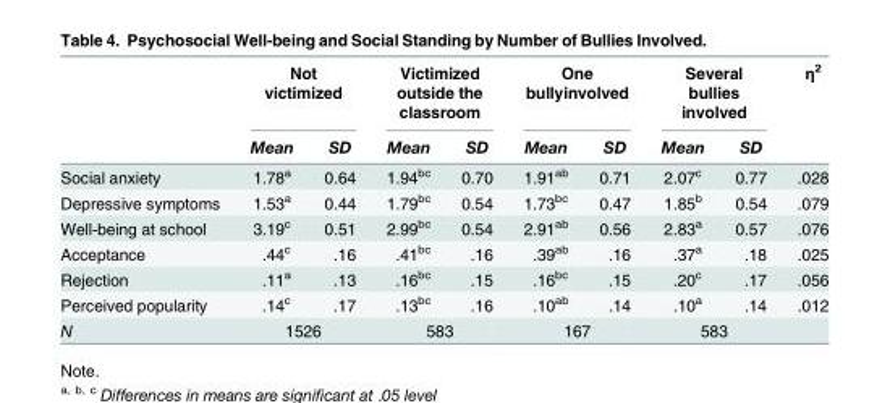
<table><thead><tr><td rowspan="2"></td><td colspan="2">Not victimized</td><td colspan="2">Victimized outside the classroom</td><td colspan="2">One bullyinvolved</td><td colspan="2">Several bullies involved</td><td rowspan="2">η<sup>2</sup></td></tr><tr><td>Mean</td><td>SD</td><td>Mean</td><td>SD</td><td>Mean</td><td>SD</td><td>Mean</td><td>SD</td></tr></thead><tbody><tr><td>Social anxiety</td><td>1.78<sup>a</sup></td><td>0.64</td><td>1.94<sup>bc</sup></td><td>0.70</td><td>1.91<sup>ab</sup></td><td>0.71</td><td>2.07<sup>c</sup></td><td>0.77</td><td>.028</td></tr><tr><td>Depressive symptoms</td><td>1.53<sup>a</sup></td><td>0.44</td><td>1.79<sup>bc</sup></td><td>0.54</td><td>1.73<sup>bc</sup></td><td>0.47</td><td>1.85<sup>b</sup></td><td>0.54</td><td>.079</td></tr><tr><td>Well-being at school</td><td>3.19<sup>c</sup></td><td>0.51</td><td>2.99<sup>bc</sup></td><td>0.54</td><td>2.91<sup>ab</sup></td><td>0.56</td><td>2.83<sup>a</sup></td><td>0.57</td><td>.076</td></tr><tr><td>Acceptance</td><td>.44<sup>c</sup></td><td>.16</td><td>.41<sup>bc</sup></td><td>.16</td><td>.39<sup>ab</sup></td><td>.16</td><td>.37<sup>a</sup></td><td>.18</td><td>.025</td></tr><tr><td>Rejection</td><td>.11<sup>a</sup></td><td>.13</td><td>.16<sup>bc</sup></td><td>.15</td><td>.16<sup>bc</sup></td><td>.15</td><td>.20<sup>c</sup></td><td>.17</td><td>.056</td></tr><tr><td>Perceived popularity</td><td>.14<sup>c</sup></td><td>.17</td><td>.13<sup>bc</sup></td><td>.16</td><td>.10<sup>ab</sup></td><td>.14</td><td>.10<sup>a</sup></td><td>.14</td><td>.012</td></tr><tr><td>N</td><td colspan="2">1526</td><td colspan="2">583</td><td colspan="2">167</td><td colspan="2">583</td><td></td></tr></tbody></table>